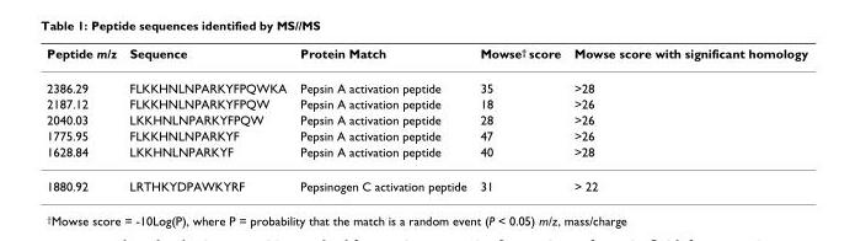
<table><thead><tr><td>Peptide m/z</td><td>Sequence</td><td>Protein Match</td><td>Mowse<sup>†</sup> score</td><td>Mowse score with significant homology</td></tr></thead><tbody><tr><td>2386.29</td><td>FLKKHNLNPARKYFPQWKA</td><td>Pepsin A activation peptide</td><td>35</td><td>&gt;28</td></tr><tr><td>2187.12</td><td>FLKKHNLNPARKYFPQW</td><td>Pepsin A activation peptide</td><td>18</td><td>&gt;26</td></tr><tr><td>2040.03</td><td>LKKHNLNPARKYFPQW</td><td>Pepsin A activation peptide</td><td>28</td><td>&gt;26</td></tr><tr><td>1775.95</td><td>FLKKHNLNPARKYF</td><td>Pepsin A activation peptide</td><td>47</td><td>&gt;26</td></tr><tr><td>1628.84</td><td>LKKHNLNPARKYF</td><td>Pepsin A activation peptide</td><td>40</td><td>&gt;28</td></tr><tr><td>1880.92</td><td>LRTHKYDPAWKYRF</td><td>Pepsinogen C activation peptide</td><td>31</td><td>&gt; 22</td></tr></tbody></table>